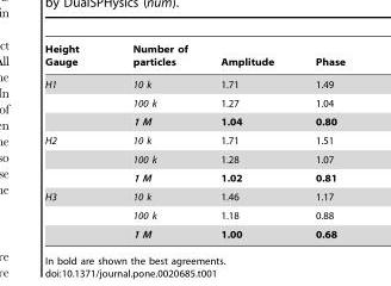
<table><thead><tr><td>Height Gauge</td><td>Number of particles</td><td>Amplitude</td><td>Phase</td></tr></thead><tbody><tr><td rowspan="3">H1</td><td>10 k</td><td>1.71</td><td>1.49</td></tr><tr><td>100 k</td><td>1.27</td><td>1.04</td></tr><tr><td>1 M</td><td>1.04</td><td>0.80</td></tr><tr><td rowspan="3">H2</td><td>10 k</td><td>1.71</td><td>1.51</td></tr><tr><td>100 k</td><td>1.28</td><td>1.07</td></tr><tr><td>1 M</td><td>1.02</td><td>0.81</td></tr><tr><td rowspan="3">H3</td><td>10 k</td><td>1.46</td><td>1.17</td></tr><tr><td>100 k</td><td>1.18</td><td>0.88</td></tr><tr><td>1 M</td><td>1.00</td><td>0.68</td></tr></tbody></table>